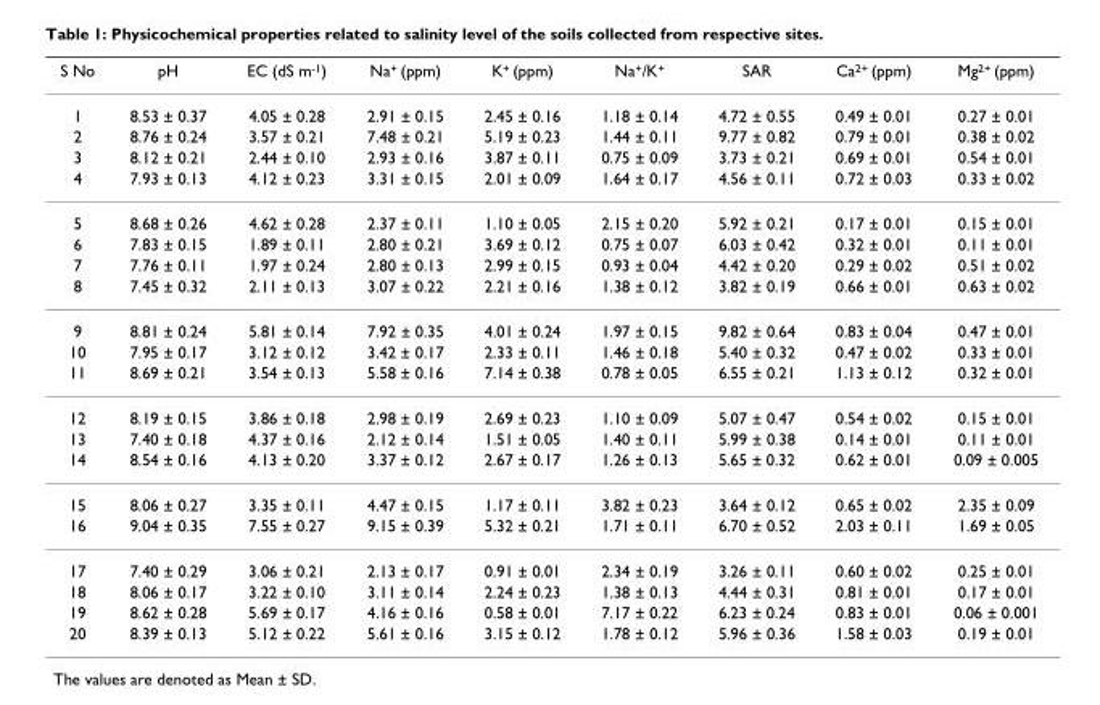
<table><thead><tr><td>S No</td><td>pH</td><td>EC (dS m<sup>-1</sup>)</td><td>Na<sup>+</sup> (ppm)</td><td>K<sup>+</sup> (ppm)</td><td>Na<sup>+</sup>/K<sup>+</sup></td><td>SAR</td><td>Ca<sup>2+</sup> (ppm)</td><td>Mg<sup>2+</sup> (ppm)</td></tr></thead><tbody><tr><td>1</td><td>8.53 ± 0.37</td><td>4.05 ± 0.28</td><td>2.91 ± 0.15</td><td>2.45 ± 0.16</td><td>1.18 ± 0.14</td><td>4.72 ± 0.55</td><td>0.49 ± 0.01</td><td>0.27 ± 0.01</td></tr><tr><td>2</td><td>8.76 ± 0.24</td><td>3.57 ± 0.21</td><td>7.48 ± 0.21</td><td>5.19 ± 0.23</td><td>1.44 ± 0.11</td><td>9.77 ± 0.82</td><td>0.79 ± 0.01</td><td>0.38 ± 0.02</td></tr><tr><td>3</td><td>8.12 ± 0.21</td><td>2.44 ± 0.10</td><td>2.93 ± 0.16</td><td>3.87 ± 0.11</td><td>0.75 ± 0.09</td><td>3.73 ± 0.21</td><td>0.69 ± 0.01</td><td>0.54 ± 0.01</td></tr><tr><td>4</td><td>7.93 ± 0.13</td><td>4.12 ± 0.23</td><td>3.31 ± 0.15</td><td>2.01 ± 0.09</td><td>1.64 ± 0.17</td><td>4.56 ± 0.11</td><td>0.72 ± 0.03</td><td>0.33 ± 0.02</td></tr><tr><td>5</td><td>8.68 ± 0.26</td><td>4.62 ± 0.28</td><td>2.37 ± 0.11</td><td>1.10 ± 0.05</td><td>2.15 ± 0.20</td><td>5.92 ± 0.21</td><td>0.17 ± 0.01</td><td>0.15 ± 0.01</td></tr><tr><td>6</td><td>7.83 ± 0.15</td><td>1.89 ± 0.11</td><td>2.80 ± 0.21</td><td>3.69 ± 0.12</td><td>0.75 ± 0.07</td><td>6.03 ± 0.42</td><td>0.32 ± 0.01</td><td>0.11 ± 0.01</td></tr><tr><td>7</td><td>7.76 ± 0.11</td><td>1.97 ± 0.24</td><td>2.80 ± 0.13</td><td>2.99 ± 0.15</td><td>0.93 ± 0.04</td><td>4.42 ± 0.20</td><td>0.29 ± 0.02</td><td>0.51 ± 0.02</td></tr><tr><td>8</td><td>7.45 ± 0.32</td><td>2.11 ± 0.13</td><td>3.07 ± 0.22</td><td>2.21 ± 0.16</td><td>1.38 ± 0.12</td><td>3.82 ± 0.19</td><td>0.66 ± 0.01</td><td>0.63 ± 0.02</td></tr><tr><td>9</td><td>8.81 ± 0.24</td><td>5.81 ± 0.14</td><td>7.92 ± 0.35</td><td>4.01 ± 0.24</td><td>1.97 ± 0.15</td><td>9.82 ± 0.64</td><td>0.83 ± 0.04</td><td>0.47 ± 0.01</td></tr><tr><td>10</td><td>7.95 ± 0.17</td><td>3.12 ± 0.12</td><td>3.42 ± 0.17</td><td>2.33 ± 0.11</td><td>1.46 ± 0.18</td><td>5.40 ± 0.32</td><td>0.47 ± 0.02</td><td>0.33 ± 0.01</td></tr><tr><td>11</td><td>8.69 ± 0.21</td><td>3.54 ± 0.13</td><td>5.58 ± 0.16</td><td>7.14 ± 0.38</td><td>0.78 ± 0.05</td><td>6.55 ± 0.21</td><td>1.13 ± 0.12</td><td>0.32 ± 0.01</td></tr><tr><td>12</td><td>8.19 ± 0.15</td><td>3.86 ± 0.18</td><td>2.98 ± 0.19</td><td>2.69 ± 0.23</td><td>1.10 ± 0.09</td><td>5.07 ± 0.47</td><td>0.54 ± 0.02</td><td>0.15 ± 0.01</td></tr><tr><td>13</td><td>7.40 ± 0.18</td><td>4.37 ± 0.16</td><td>2.12 ± 0.14</td><td>1.51 ± 0.05</td><td>1.40 ± 0.11</td><td>5.99 ± 0.38</td><td>0.14 ± 0.01</td><td>0.11 ± 0.01</td></tr><tr><td>14</td><td>8.54 ± 0.16</td><td>4.13 ± 0.20</td><td>3.37 ± 0.12</td><td>2.67 ± 0.17</td><td>1.26 ± 0.13</td><td>5.65 ± 0.32</td><td>0.62 ± 0.01</td><td>0.09 ± 0.005</td></tr><tr><td>15</td><td>8.06 ± 0.27</td><td>3.35 ± 0.11</td><td>4.47 ± 0.15</td><td>1.17 ± 0.11</td><td>3.82 ± 0.23</td><td>3.64 ± 0.12</td><td>0.65 ± 0.02</td><td>2.35 ± 0.09</td></tr><tr><td>16</td><td>9.04 ± 0.35</td><td>7.55 ± 0.27</td><td>9.15 ± 0.39</td><td>5.32 ± 0.21</td><td>1.71 ± 0.11</td><td>6.70 ± 0.52</td><td>2.03 ± 0.11</td><td>1.69 ± 0.05</td></tr><tr><td>17</td><td>7.40 ± 0.29</td><td>3.06 ± 0.21</td><td>2.13 ± 0.17</td><td>0.91 ± 0.01</td><td>2.34 ± 0.19</td><td>3.26 ± 0.11</td><td>0.60 ± 0.02</td><td>0.25 ± 0.01</td></tr><tr><td>18</td><td>8.06 ± 0.17</td><td>3.22 ± 0.10</td><td>3.11 ± 0.14</td><td>2.24 ± 0.23</td><td>1.38 ± 0.13</td><td>4.44 ± 0.31</td><td>0.81 ± 0.01</td><td>0.17 ± 0.01</td></tr><tr><td>19</td><td>8.62 ± 0.28</td><td>5.69 ± 0.17</td><td>4.16 ± 0.16</td><td>0.58 ± 0.01</td><td>7.17 ± 0.22</td><td>6.23 ± 0.24</td><td>0.83 ± 0.01</td><td>0.06 ± 0.001</td></tr><tr><td>20</td><td>8.39 ± 0.13</td><td>5.12 ± 0.22</td><td>5.61 ± 0.16</td><td>3.15 ± 0.12</td><td>1.78 ± 0.12</td><td>5.96 ± 0.36</td><td>1.58 ± 0.03</td><td>0.19 ± 0.01</td></tr></tbody></table>